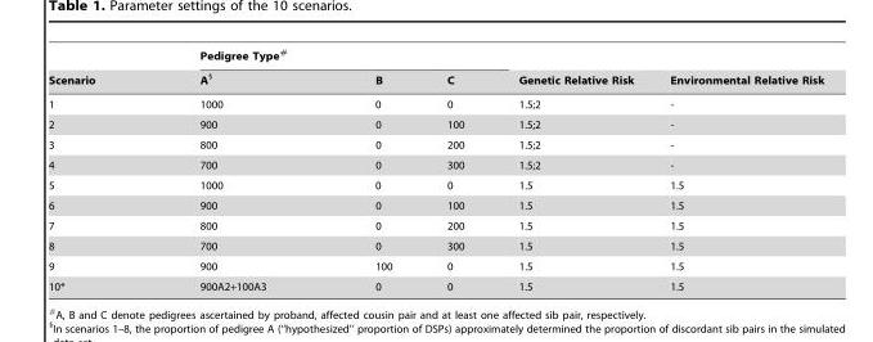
<table><thead><tr><td rowspan="2">Scenario</td><td colspan="3">Pedigree Type#</td><td rowspan="2">Genetic Relative Risk</td><td rowspan="2">Environmental Relative Risk</td></tr><tr><td>A§</td><td>B</td><td>C</td></tr></thead><tbody><tr><td>1</td><td>1000</td><td>0</td><td>0</td><td>1.5;2</td><td>-</td></tr><tr><td>2</td><td>900</td><td>0</td><td>100</td><td>1.5;2</td><td>-</td></tr><tr><td>3</td><td>800</td><td>0</td><td>200</td><td>1.5;2</td><td>-</td></tr><tr><td>4</td><td>700</td><td>0</td><td>300</td><td>1.5;2</td><td>-</td></tr><tr><td>5</td><td>1000</td><td>0</td><td>0</td><td>1.5</td><td>1.5</td></tr><tr><td>6</td><td>900</td><td>0</td><td>100</td><td>1.5</td><td>1.5</td></tr><tr><td>7</td><td>800</td><td>0</td><td>200</td><td>1.5</td><td>1.5</td></tr><tr><td>8</td><td>700</td><td>0</td><td>300</td><td>1.5</td><td>1.5</td></tr><tr><td>9</td><td>900</td><td>100</td><td>0</td><td>1.5</td><td>1.5</td></tr><tr><td>10*</td><td>900A2+100A3</td><td>0</td><td>0</td><td>1.5</td><td>1.5</td></tr></tbody></table>